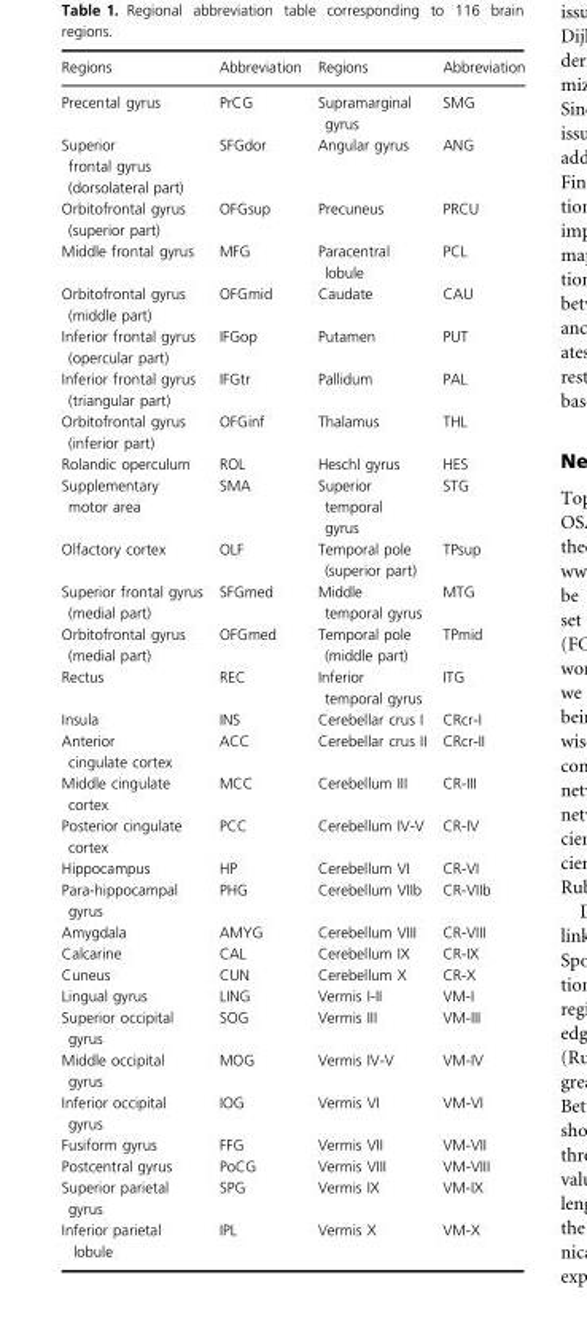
<table><thead><tr><td>Regions</td><td>Abbreviation</td><td>Regions</td><td>Abbreviation</td></tr></thead><tbody><tr><td>Precental gyrus</td><td>PrCG</td><td>Supramarginal gyrus</td><td>SMG</td></tr><tr><td>Superior frontal gyrus (dorsolateral part)</td><td>SFGdor</td><td>Angular gyrus</td><td>ANG</td></tr><tr><td>Orbitofrontal gyrus (superior part)</td><td>OFGsup</td><td>Precuneus</td><td>PRCU</td></tr><tr><td>Middle frontal gyrus</td><td>MFG</td><td>Paracentral lobule</td><td>PCL</td></tr><tr><td>Orbitofrontal gyrus (middle part)</td><td>OFGmid</td><td>Caudate</td><td>CAU</td></tr><tr><td>Inferior frontal gyrus (opercular part)</td><td>IFGop</td><td>Putamen</td><td>PUT</td></tr><tr><td>Inferior frontal gyrus (triangular part)</td><td>IFGtr</td><td>Pallidum</td><td>PAL</td></tr><tr><td>Orbitofrontal gyrus (inferior part)</td><td>OFGinf</td><td>Thalamus</td><td>THL</td></tr><tr><td>Rolandic operculum</td><td>ROL</td><td>Heschl gyrus</td><td>HES</td></tr><tr><td>Supplementary motor area</td><td>SMA</td><td>Superior temporal gyrus</td><td>STG</td></tr><tr><td>Olfactory cortex</td><td>OLF</td><td>Temporal pole (superior part)</td><td>TPsup</td></tr><tr><td>Superior frontal gyrus (medial part)</td><td>SFGmed</td><td>Middle temporal gyrus</td><td>MTG</td></tr><tr><td>Orbitofrontal gyrus (medial part)</td><td>OFGmed</td><td>Temporal pole (middle part)</td><td>TPmid</td></tr><tr><td>Rectus</td><td>REC</td><td>Inferior temporal gyrus</td><td>ITG</td></tr><tr><td>Insula</td><td>INS</td><td>Cerebellar crus I</td><td>CRcr-I</td></tr><tr><td>Anterior cingulate cortex</td><td>ACC</td><td>Cerebellar crus II</td><td>CRcr-II</td></tr><tr><td>Middle cingulate cortex</td><td>MCC</td><td>Cerebellum III</td><td>CR-III</td></tr><tr><td>Posterior cingulate cortex</td><td>PCC</td><td>Cerebellum IV-V</td><td>CR-IV</td></tr><tr><td>Hippocampus</td><td>HP</td><td>Cerebellum VI</td><td>CR-VI</td></tr><tr><td>Para-hippocampal gyrus</td><td>PHG</td><td>Cerebellum VIIb</td><td>CR-VIIb</td></tr><tr><td>Amygdala</td><td>AMYG</td><td>Cerebellum VIII</td><td>CR-VIII</td></tr><tr><td>Calcarine</td><td>CAL</td><td>Cerebellum IX</td><td>CR-IX</td></tr><tr><td>Cuneus</td><td>CUN</td><td>Cerebellum X</td><td>CR-X</td></tr><tr><td>Lingual gyrus</td><td>LING</td><td>Vermis I-II</td><td>VM-I</td></tr><tr><td>Superior occipital gyrus</td><td>SOG</td><td>Vermis III</td><td>VM-III</td></tr><tr><td>Middle occipital gyrus</td><td>MOG</td><td>Vermis IV-V</td><td>VM-IV</td></tr><tr><td>Inferior occipital gyrus</td><td>IOG</td><td>Vermis VI</td><td>VM-VI</td></tr><tr><td>Fusiform gyrus</td><td>FFG</td><td>Vermis VII</td><td>VM-VII</td></tr><tr><td>Postcentral gyrus</td><td>PoCG</td><td>Vermis VIII</td><td>VM-VIII</td></tr><tr><td>Superior parietal gyrus</td><td>SPG</td><td>Vermis IX</td><td>VM-IX</td></tr><tr><td>Inferior parietal lobule</td><td>IPL</td><td>Vermis X</td><td>VM-X</td></tr></tbody></table>